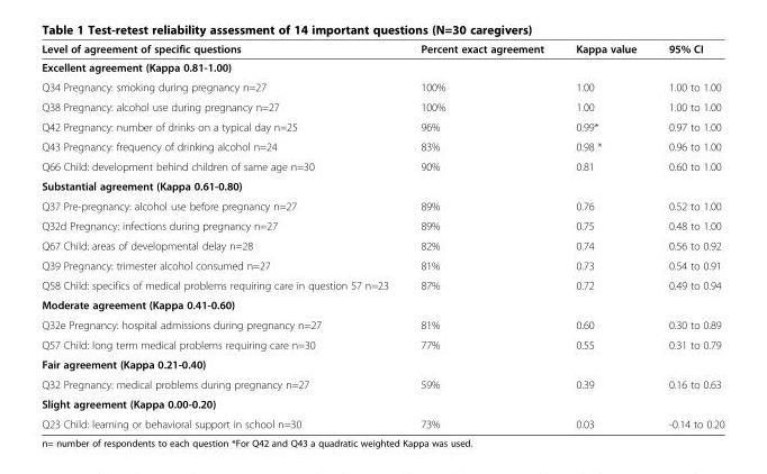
<table><thead><tr><td>Level of agreement of specific questions</td><td>Percent exact agreement</td><td>Kappa value</td><td>95% CI</td></tr></thead><tbody><tr><td colspan="4">Excellent agreement (Kappa 0.81-1.00)</td></tr><tr><td>Q34 Pregnancy: smoking during pregnancy n=27</td><td>100%</td><td>1.00</td><td>1.00 to 1.00</td></tr><tr><td>Q38 Pregnancy: alcohol use during pregnancy n=27</td><td>100%</td><td>1.00</td><td>1.00 to 1.00</td></tr><tr><td>Q42 Pregnancy: number of drinks on a typical day n=25</td><td>96%</td><td>0.99*</td><td>0.97 to 1.00</td></tr><tr><td>Q43 Pregnancy: frequency of drinking alcohol n=24</td><td>83%</td><td>0.98 *</td><td>0.96 to 1.00</td></tr><tr><td>Q66 Child: development behind children of same age n=30</td><td>90%</td><td>0.81</td><td>0.60 to 1.00</td></tr><tr><td colspan="4">Substantial agreement (Kappa 0.61-0.80)</td></tr><tr><td>Q37 Pre-pregnancy: alcohol use before pregnancy n=27</td><td>89%</td><td>0.76</td><td>0.52 to 1.00</td></tr><tr><td>Q32d Pregnancy: infections during pregnancy n=27</td><td>89%</td><td>0.75</td><td>0.48 to 1.00</td></tr><tr><td>Q67 Child: areas of developmental delay n=28</td><td>82%</td><td>0.74</td><td>0.56 to 0.92</td></tr><tr><td>Q39 Pregnancy: trimester alcohol consumed n=27</td><td>81%</td><td>0.73</td><td>0.54 to 0.91</td></tr><tr><td>Q58 Child: specifics of medical problems requiring care in question 57 n=23</td><td>87%</td><td>0.72</td><td>0.49 to 0.94</td></tr><tr><td colspan="4">Moderate agreement (Kappa 0.41-0.60)</td></tr><tr><td>Q32e Pregnancy: hospital admissions during pregnancy n=27</td><td>81%</td><td>0.60</td><td>0.30 to 0.89</td></tr><tr><td>Q57 Child: long term medical problems requiring care n=30</td><td>77%</td><td>0.55</td><td>0.31 to 0.79</td></tr><tr><td colspan="4">Fair agreement (Kappa 0.21-0.40)</td></tr><tr><td>Q32 Pregnancy: medical problems during pregnancy n=27</td><td>59%</td><td>0.39</td><td>0.16 to 0.63</td></tr><tr><td colspan="4">Slight agreement (Kappa 0.00-0.20)</td></tr><tr><td>Q23 Child: learning or behavioral support in school n=30</td><td>73%</td><td>0.03</td><td>-0.14 to 0.20</td></tr></tbody></table>